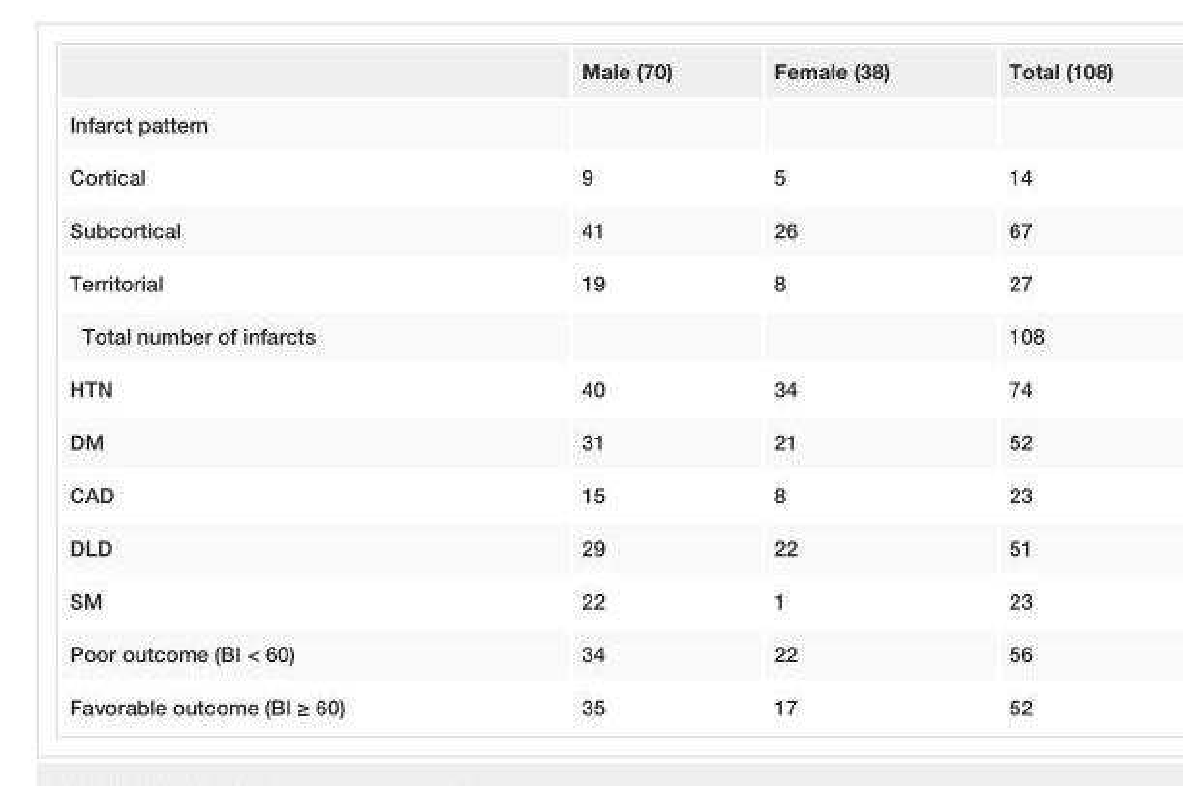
<table><thead><tr><td></td><td>Male (70)</td><td>Female (38)</td><td>Total (108)</td></tr></thead><tbody><tr><td colspan="4">Infarct pattern</td></tr><tr><td>Cortical</td><td>9</td><td>5</td><td>14</td></tr><tr><td>Subcortical</td><td>41</td><td>26</td><td>67</td></tr><tr><td>Territorial</td><td>19</td><td>8</td><td>27</td></tr><tr><td>Total number of infarcts</td><td></td><td></td><td>108</td></tr><tr><td>HTN</td><td>40</td><td>34</td><td>74</td></tr><tr><td>DM</td><td>31</td><td>21</td><td>52</td></tr><tr><td>CAD</td><td>15</td><td>8</td><td>23</td></tr><tr><td>DLD</td><td>29</td><td>22</td><td>51</td></tr><tr><td>SM</td><td>22</td><td>1</td><td>23</td></tr><tr><td>Poor outcome (BI &lt; 60)</td><td>34</td><td>22</td><td>56</td></tr><tr><td>Favorable outcome (BI ≥ 60)</td><td>35</td><td>17</td><td>52</td></tr></tbody></table>